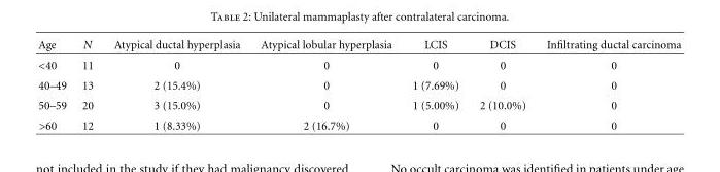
<table><thead><tr><td>Age</td><td>N</td><td>Atypical ductal hyperplasia</td><td>Atypical lobular hyperplasia</td><td>LCIS</td><td>DCIS</td><td>Infiltrating ductal carcinoma</td></tr></thead><tbody><tr><td>&lt;40</td><td>11</td><td>0</td><td>0</td><td>0</td><td>0</td><td>0</td></tr><tr><td>40–49</td><td>13</td><td>2 (15.4%)</td><td>0</td><td>1 (7.69%)</td><td>0</td><td>0</td></tr><tr><td>50–59</td><td>20</td><td>3 (15.0%)</td><td>0</td><td>1 (5.00%)</td><td>2 (10.0%)</td><td>0</td></tr><tr><td>&gt;60</td><td>12</td><td>1 (8.33%)</td><td>2 (16.7%)</td><td>0</td><td>0</td><td>0</td></tr></tbody></table>